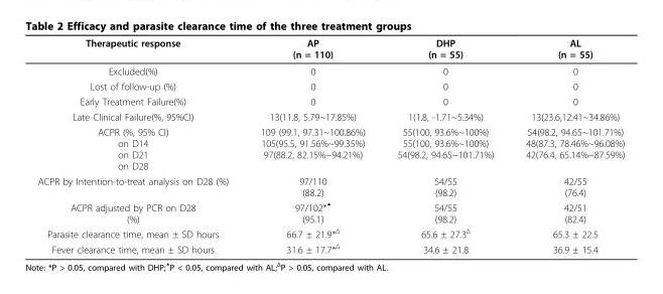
<table><thead><tr><td>Therapeutic response</td><td>AP (n = 110)</td><td>DHP (n = 55)</td><td>AL (n = 55)</td></tr></thead><tbody><tr><td>Excluded(%)</td><td>0</td><td>0</td><td>0</td></tr><tr><td>Lost of follow-up (%)</td><td>0</td><td>0</td><td>0</td></tr><tr><td>Early Treatment Failure(%)</td><td>0</td><td>0</td><td>0</td></tr><tr><td>Late Clinical Failure(%, 95%CI)</td><td>13(11.8, 5.79~17.85%)</td><td>1(1.8, -1.71~5.34%)</td><td>13(23.6,12.41~34.86%)</td></tr><tr><td>ACPR (%, 95% CI) on D14 on D21 on D28</td><td>109 (99.1, 97.31~100.86%) 105(95.5, 91.56%~99.35%) 97(88.2, 82.15%~94.21%)</td><td>55(100, 93.6%~100%) 55(100, 93.6%~100%) 54(98.2, 94.65~101.71%)</td><td>54(98.2, 94.65~101.71%) 48(87.3, 78.46%~96.08%) 42(76.4, 65.14%~87.59%)</td></tr><tr><td>ACPR by Intention-to-treat analysis on D28 (%)</td><td>97/110 (88.2)</td><td>54/55 (98.2)</td><td>42/55 (76.4)</td></tr><tr><td>ACPR adjusted by PCR on D28 (%)</td><td>97/102*<sup>▲</sup> (95.1)</td><td>54/55 (98.2)</td><td>42/51 (82.4)</td></tr><tr><td>Parasite clearance time, mean ± SD hours</td><td>66.7 ± 21.9*<sup>Δ</sup></td><td>65.6 ± 27.3<sup>Δ</sup></td><td>65.3 ± 22.5</td></tr><tr><td>Fever clearance time, mean ± SD hours</td><td>31.6 ± 17.7*<sup>Δ</sup></td><td>34.6 ± 21.8</td><td>36.9 ± 15.4</td></tr></tbody></table>